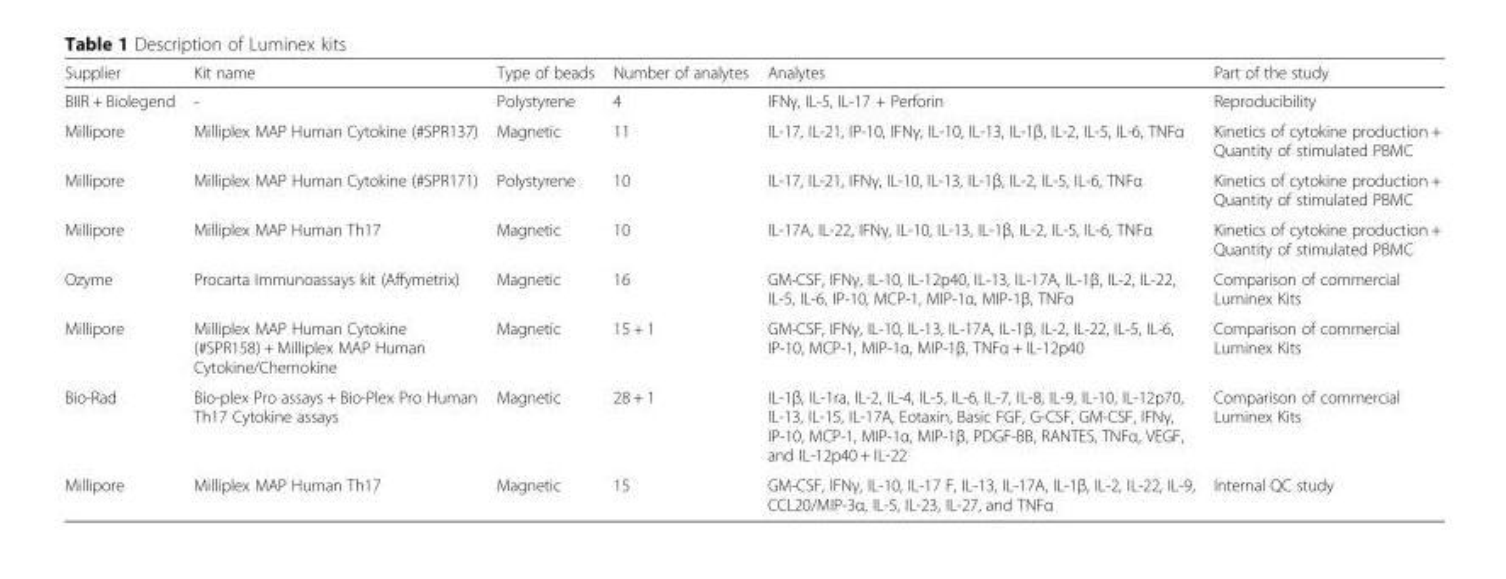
<table><thead><tr><td>Supplier</td><td>Kit name</td><td>Type of beads</td><td>Number of analytes</td><td>Analytes</td><td>Part of the study</td></tr></thead><tbody><tr><td>BIIR + Biolegend</td><td>-</td><td>Polystyrene</td><td>4</td><td>IFNγ, IL-5, IL-17 + Perforin</td><td>Reproducibility</td></tr><tr><td>Millipore</td><td>Milliplex MAP Human Cytokine (#SPR137)</td><td>Magnetic</td><td>11</td><td>IL-17, IL-21, IP-10, IFNγ, IL-10, IL-13, IL-1β, IL-2, IL-5, IL-6, TNFα</td><td>Kinetics of cytokine production + Quantity of stimulated PBMC</td></tr><tr><td>Millipore</td><td>Milliplex MAP Human Cytokine (#SPR171)</td><td>Polystyrene</td><td>10</td><td>IL-17, IL-21, IFNγ, IL-10, IL-13, IL-1β, IL-2, IL-5, IL-6, TNFα</td><td>Kinetics of cytokine production + Quantity of stimulated PBMC</td></tr><tr><td>Millipore</td><td>Milliplex MAP Human Th17</td><td>Magnetic</td><td>10</td><td>IL-17A, IL-22, IFNγ, IL-10, IL-13, IL-1β, IL-2, IL-5, IL-6, TNFα</td><td>Kinetics of cytokine production + Quantity of stimulated PBMC</td></tr><tr><td>Ozyme</td><td>Procarta Immunoassays kit (Affymetrix)</td><td>Magnetic</td><td>16</td><td>GM-CSF, IFNγ, IL-10, IL-12p40, IL-13, IL-17A, IL-1β, IL-2, IL-22, IL-5, IL-6, IP-10, MCP-1, MIP-1α, MIP-1β, TNFα</td><td>Comparison of commercial Luminex Kits</td></tr><tr><td>Millipore</td><td>Milliplex MAP Human Cytokine (#SPR158) + Milliplex MAP Human Cytokine/Chemokine</td><td>Magnetic</td><td>15 + 1</td><td>GM-CSF, IFNγ, IL-10, IL-13, IL-17A, IL-1β, IL-2, IL-22, IL-5, IL-6, IP-10, MCP-1, MIP-1α, MIP-1β, TNFα + IL-12p40</td><td>Comparison of commercial Luminex Kits</td></tr><tr><td>Bio-Rad</td><td>Bio-plex Pro assays + Bio-Plex Pro Human Th17 Cytokine assays</td><td>Magnetic</td><td>28 + 1</td><td>IL-1β, IL-1ra, IL-2, IL-4, IL-5, IL-6, IL-7, IL-8, IL-9, IL-10, IL-12p70, IL-13, IL-15, IL-17A, Eotaxin, Basic FGF, G-CSF, GM-CSF, IFNγ, IP-10, MCP-1, MIP-1α, MIP-1β, PDGF-BB, RANTES, TNFα, VEGF, and IL-12p40 + IL-22</td><td>Comparison of commercial Luminex Kits</td></tr><tr><td>Millipore</td><td>Milliplex MAP Human Th17</td><td>Magnetic</td><td>15</td><td>GM-CSF, IFNγ, IL-10, IL-17 F, IL-13, IL-17A, IL-1β, IL-2, IL-22, IL-9, CCL20/MIP-3α, IL-5, IL-23, IL-27, and TNFα</td><td>Internal QC study</td></tr></tbody></table>